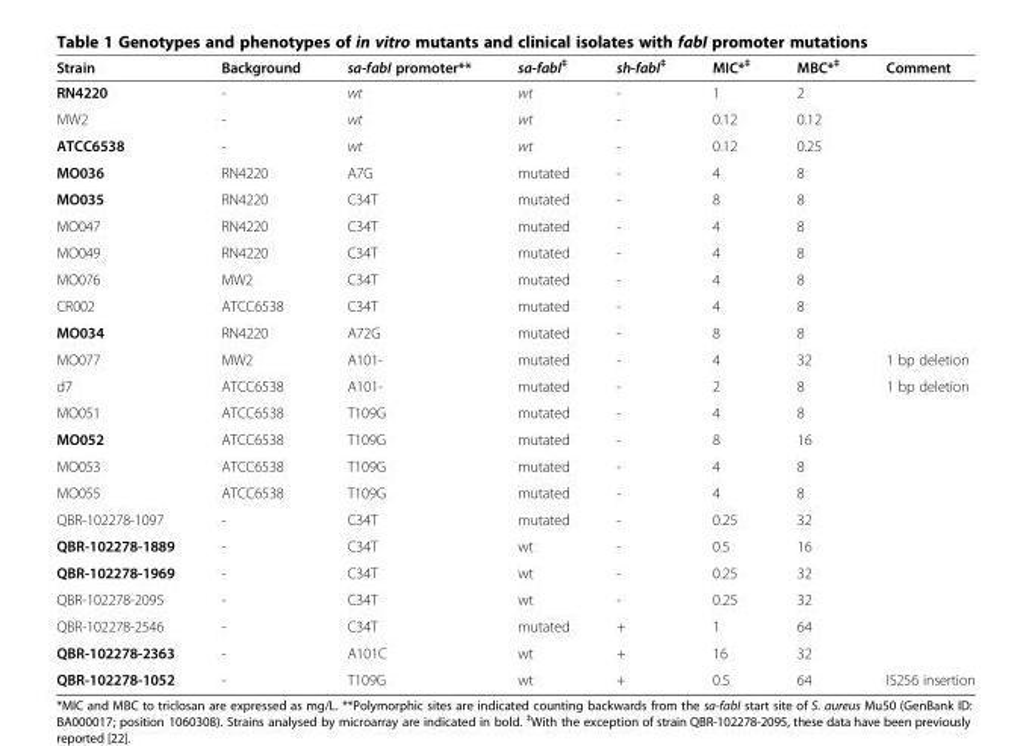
<table><thead><tr><td>Strain</td><td>Background</td><td>sa-fabI promoter**</td><td>sa-fabI<sup>‡</sup></td><td>sh-fabI<sup>‡</sup></td><td>MIC*<sup>‡</sup></td><td>MBC*<sup>‡</sup></td><td>Comment</td></tr></thead><tbody><tr><td>RN4220</td><td>-</td><td>wt</td><td>wt</td><td>-</td><td>1</td><td>2</td><td></td></tr><tr><td>MW2</td><td>-</td><td>wt</td><td>wt</td><td>-</td><td>0.12</td><td>0.12</td><td></td></tr><tr><td>ATCC6538</td><td>-</td><td>wt</td><td>wt</td><td>-</td><td>0.12</td><td>0.25</td><td></td></tr><tr><td>MO036</td><td>RN4220</td><td>A7G</td><td>mutated</td><td>-</td><td>4</td><td>8</td><td></td></tr><tr><td>MO035</td><td>RN4220</td><td>C34T</td><td>mutated</td><td>-</td><td>8</td><td>8</td><td></td></tr><tr><td>MO047</td><td>RN4220</td><td>C34T</td><td>mutated</td><td>-</td><td>4</td><td>8</td><td></td></tr><tr><td>MO049</td><td>RN4220</td><td>C34T</td><td>mutated</td><td>-</td><td>4</td><td>8</td><td></td></tr><tr><td>MO076</td><td>MW2</td><td>C34T</td><td>mutated</td><td>-</td><td>4</td><td>8</td><td></td></tr><tr><td>CR002</td><td>ATCC6538</td><td>C34T</td><td>mutated</td><td>-</td><td>4</td><td>8</td><td></td></tr><tr><td>MO034</td><td>RN4220</td><td>A72G</td><td>mutated</td><td>-</td><td>8</td><td>8</td><td></td></tr><tr><td>MO077</td><td>MW2</td><td>A101-</td><td>mutated</td><td>-</td><td>4</td><td>32</td><td>1 bp deletion</td></tr><tr><td>d7</td><td>ATCC6538</td><td>A101-</td><td>mutated</td><td>-</td><td>2</td><td>8</td><td>1 bp deletion</td></tr><tr><td>MO051</td><td>ATCC6538</td><td>T109G</td><td>mutated</td><td>-</td><td>4</td><td>8</td><td></td></tr><tr><td>MO052</td><td>ATCC6538</td><td>T109G</td><td>mutated</td><td>-</td><td>8</td><td>16</td><td></td></tr><tr><td>MO053</td><td>ATCC6538</td><td>T109G</td><td>mutated</td><td>-</td><td>4</td><td>8</td><td></td></tr><tr><td>MO055</td><td>ATCC6538</td><td>T109G</td><td>mutated</td><td>-</td><td>4</td><td>8</td><td></td></tr><tr><td>QBR-102278-1097</td><td>-</td><td>C34T</td><td>mutated</td><td>-</td><td>0.25</td><td>32</td><td></td></tr><tr><td>QBR-102278-1889</td><td>-</td><td>C34T</td><td>wt</td><td>-</td><td>0.5</td><td>16</td><td></td></tr><tr><td>QBR-102278-1969</td><td>-</td><td>C34T</td><td>wt</td><td>-</td><td>0.25</td><td>32</td><td></td></tr><tr><td>QBR-102278-2095</td><td>-</td><td>C34T</td><td>wt</td><td>-</td><td>0.25</td><td>32</td><td></td></tr><tr><td>QBR-102278-2546</td><td>-</td><td>C34T</td><td>mutated</td><td>+</td><td>1</td><td>64</td><td></td></tr><tr><td>QBR-102278-2363</td><td>-</td><td>A101C</td><td>wt</td><td>+</td><td>16</td><td>32</td><td></td></tr><tr><td>QBR-102278-1052</td><td>-</td><td>T109G</td><td>wt</td><td>+</td><td>0.5</td><td>64</td><td>IS256 insertion</td></tr></tbody></table>